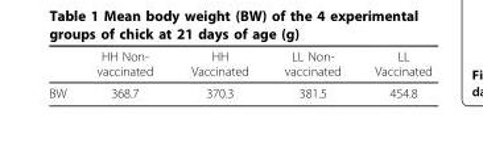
<table><thead><tr><td></td><td>HH Non- vaccinated</td><td>HH Vaccinated</td><td>LL Non- vaccinated</td><td>LL Vaccinated</td></tr></thead><tbody><tr><td>BW</td><td>368.7</td><td>370.3</td><td>381.5</td><td>454.8</td></tr></tbody></table>